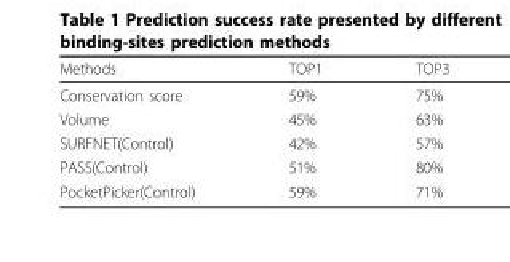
<table><thead><tr><td>Methods</td><td>TOP1</td><td>TOP3</td></tr></thead><tbody><tr><td>Conservation score</td><td>59%</td><td>75%</td></tr><tr><td>Volume</td><td>45%</td><td>63%</td></tr><tr><td>SURFNET(Control)</td><td>42%</td><td>57%</td></tr><tr><td>PASS(Control)</td><td>51%</td><td>80%</td></tr><tr><td>PocketPicker(Control)</td><td>59%</td><td>71%</td></tr></tbody></table>